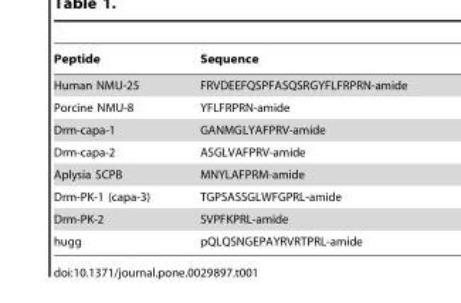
<table><thead><tr><td>Peptide</td><td>Sequence</td></tr></thead><tbody><tr><td>Human NMU-25</td><td>FRVDEEFQSPFASQSRGYFLFRPRN-amide</td></tr><tr><td>Porcine NMU-8</td><td>YFLFRPRN-amide</td></tr><tr><td>Drm-capa-1</td><td>GANMGLYAFPRV-amide</td></tr><tr><td>Drm-capa-2</td><td>ASGLVAFPRV-amide</td></tr><tr><td>Aplysia SCPB</td><td>MNYLAFPRM-amide</td></tr><tr><td>Drm-PK-1 (capa-3)</td><td>TGPSASSGLWFGPRL-amide</td></tr><tr><td>Drm-PK-2</td><td>SVPFKPRL-amide</td></tr><tr><td>hugg</td><td>pQLQSNGEPAYRVRTPRL-amide</td></tr></tbody></table>